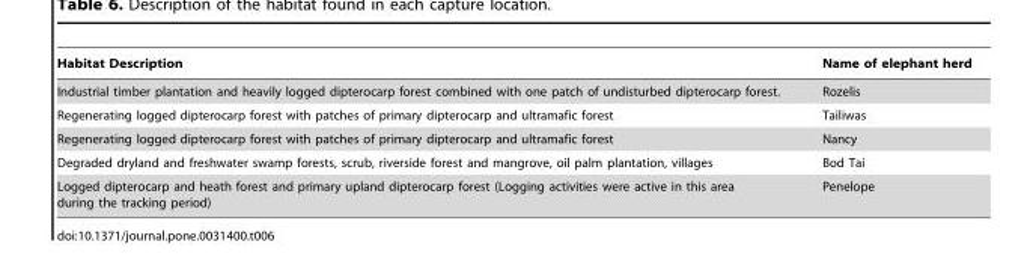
<table><thead><tr><td>Habitat Description</td><td>Name of elephant herd</td></tr></thead><tbody><tr><td>Industrial timber plantation and heavily logged dipterocarp forest combined with one patch of undisturbed dipterocarp forest.</td><td>Rozelis</td></tr><tr><td>Regenerating logged dipterocarp forest with patches of primary dipterocarp and ultramafic forest</td><td>Tailiwas</td></tr><tr><td>Regenerating logged dipterocarp forest with patches of primary dipterocarp and ultramafic forest</td><td>Nancy</td></tr><tr><td>Degraded dryland and freshwater swamp forests, scrub, riverside forest and mangrove, oil palm plantation, villages</td><td>Bod Tai</td></tr><tr><td>Logged dipterocarp and heath forest and primary upland dipterocarp forest (Logging activities were active in this area during the tracking period)</td><td>Penelope</td></tr></tbody></table>